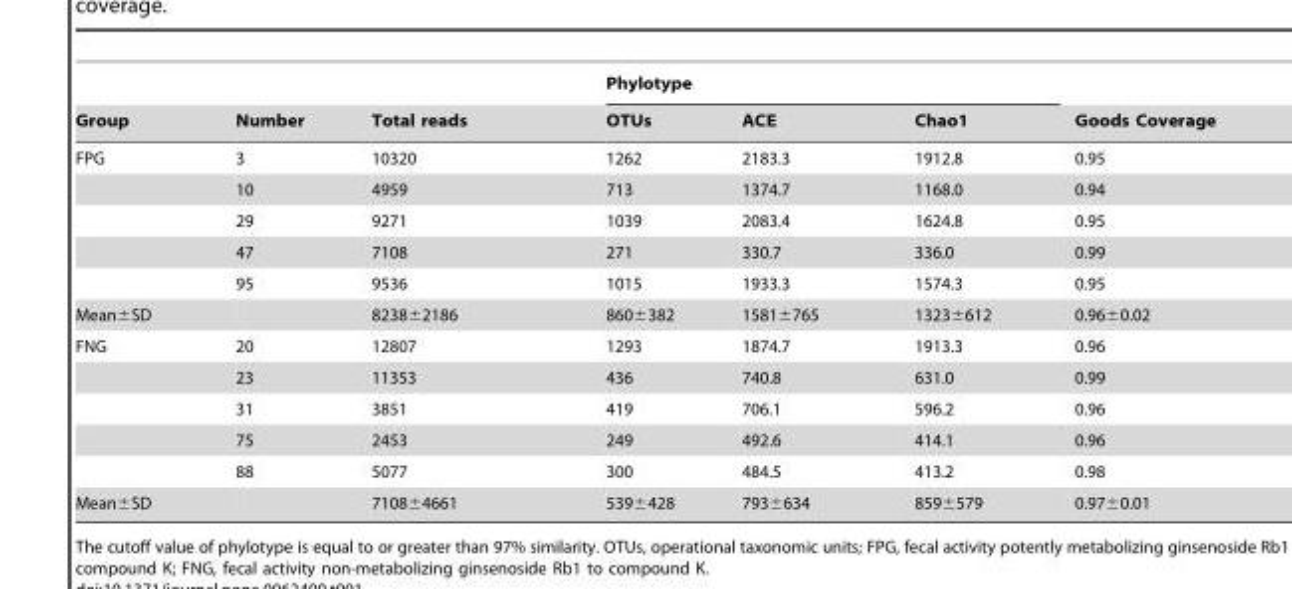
<table><thead><tr><td rowspan="2">Group</td><td rowspan="2">Number</td><td rowspan="2">Total reads</td><td colspan="3">Phylotype</td><td rowspan="2">Goods Coverage</td></tr><tr><td>OTUs</td><td>ACE</td><td>Chao1</td></tr></thead><tbody><tr><td rowspan="5">FPG</td><td>3</td><td>10320</td><td>1262</td><td>2183.3</td><td>1912.8</td><td>0.95</td></tr><tr><td>10</td><td>4959</td><td>713</td><td>1374.7</td><td>1168.0</td><td>0.94</td></tr><tr><td>29</td><td>9271</td><td>1039</td><td>2083.4</td><td>1624.8</td><td>0.95</td></tr><tr><td>47</td><td>7108</td><td>271</td><td>330.7</td><td>336.0</td><td>0.99</td></tr><tr><td>95</td><td>9536</td><td>1015</td><td>1933.3</td><td>1574.3</td><td>0.95</td></tr><tr><td>Mean±SD</td><td></td><td>8238±2186</td><td>860±382</td><td>1581±765</td><td>1323±612</td><td>0.96±0.02</td></tr><tr><td rowspan="5">FNG</td><td>20</td><td>12807</td><td>1293</td><td>1874.7</td><td>1913.3</td><td>0.96</td></tr><tr><td>23</td><td>11353</td><td>436</td><td>740.8</td><td>631.0</td><td>0.99</td></tr><tr><td>31</td><td>3851</td><td>419</td><td>706.1</td><td>596.2</td><td>0.96</td></tr><tr><td>75</td><td>2453</td><td>249</td><td>492.6</td><td>414.1</td><td>0.96</td></tr><tr><td>88</td><td>5077</td><td>300</td><td>484.5</td><td>413.2</td><td>0.98</td></tr><tr><td>Mean±SD</td><td></td><td>7108±4661</td><td>539±428</td><td>793±634</td><td>859±579</td><td>0.97±0.01</td></tr></tbody></table>